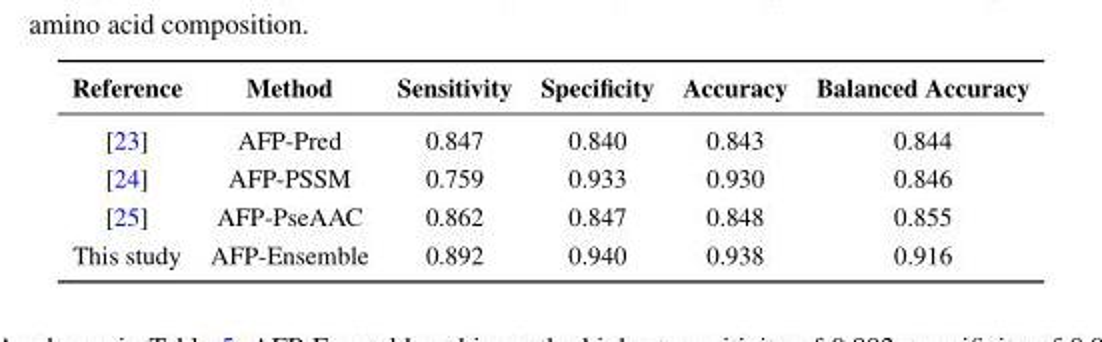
<table><thead><tr><td>Reference</td><td>Method</td><td>Sensitivity</td><td>Specificity</td><td>Accuracy</td><td>Balanced Accuracy</td></tr></thead><tbody><tr><td>[23]</td><td>AFP-Pred</td><td>0.847</td><td>0.840</td><td>0.843</td><td>0.844</td></tr><tr><td>[24]</td><td>AFP-PSSM</td><td>0.759</td><td>0.933</td><td>0.930</td><td>0.846</td></tr><tr><td>[25]</td><td>AFP-PseAAC</td><td>0.862</td><td>0.847</td><td>0.848</td><td>0.855</td></tr><tr><td>This study</td><td>AFP-Ensemble</td><td>0.892</td><td>0.940</td><td>0.938</td><td>0.916</td></tr></tbody></table>